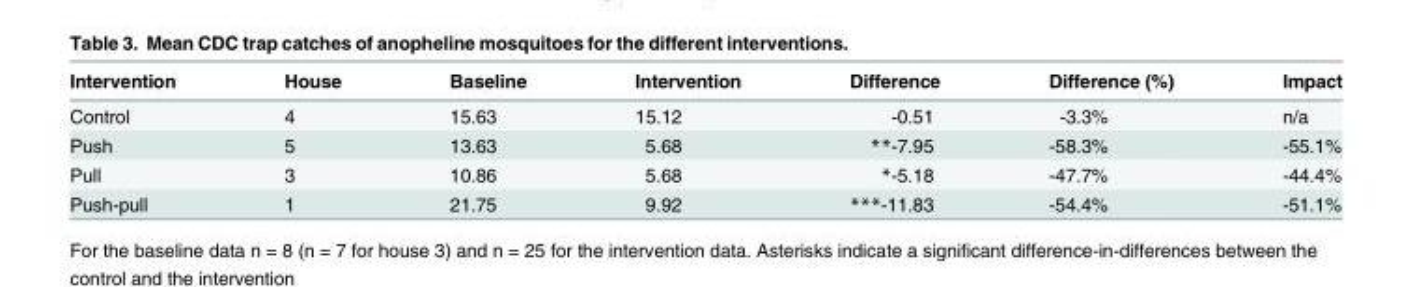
<table><thead><tr><td>Intervention</td><td>House</td><td>Baseline</td><td>Intervention</td><td>Difference</td><td>Difference (%)</td><td>Impact</td></tr></thead><tbody><tr><td>Control</td><td>4</td><td>15.63</td><td>15.12</td><td>-0.51</td><td>-3.3%</td><td>n/a</td></tr><tr><td>Push</td><td>5</td><td>13.63</td><td>5.68</td><td>**-7.95</td><td>-58.3%</td><td>-55.1%</td></tr><tr><td>Pull</td><td>3</td><td>10.86</td><td>5.68</td><td>*-5.18</td><td>-47.7%</td><td>-44.4%</td></tr><tr><td>Push-pull</td><td>1</td><td>21.75</td><td>9.92</td><td>***-11.83</td><td>-54.4%</td><td>-51.1%</td></tr></tbody></table>